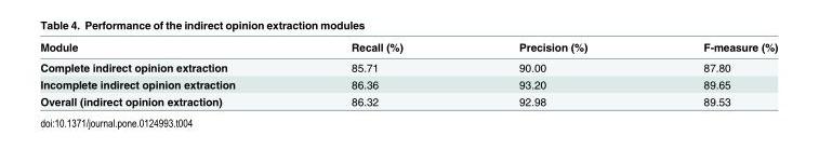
<table><thead><tr><td>Module</td><td>Recall (%)</td><td>Precision (%)</td><td>F-measure (%)</td></tr></thead><tbody><tr><td>Complete indirect opinion extraction</td><td>85.71</td><td>90.00</td><td>87.80</td></tr><tr><td>Incomplete indirect opinion extraction</td><td>86.36</td><td>93.20</td><td>89.65</td></tr><tr><td>Overall (indirect opinion extraction)</td><td>86.32</td><td>92.98</td><td>89.53</td></tr></tbody></table>